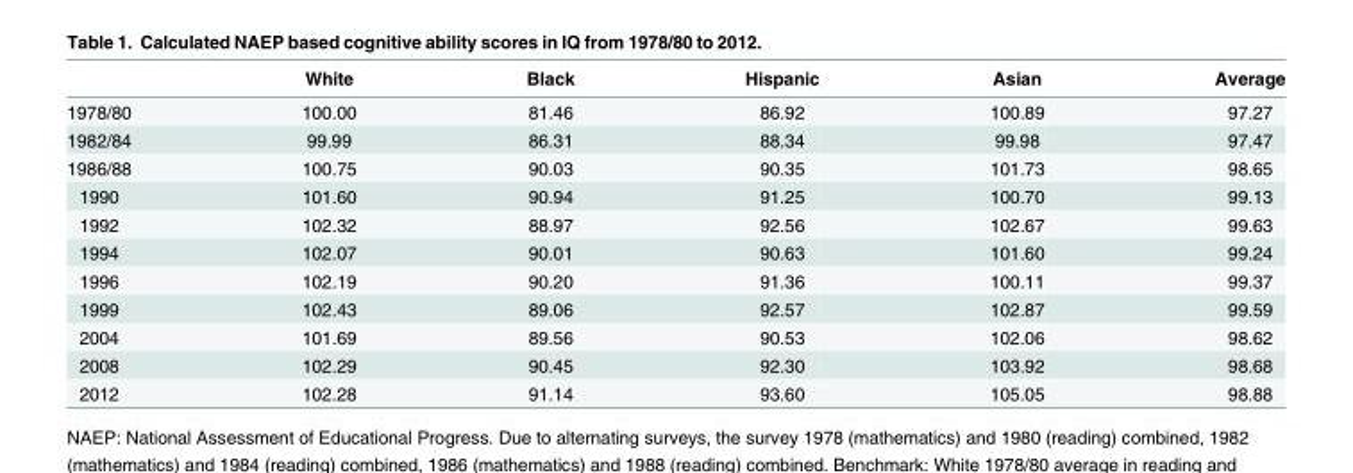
<table><thead><tr><td></td><td>White</td><td>Black</td><td>Hispanic</td><td>Asian</td><td>Average</td></tr></thead><tbody><tr><td>1978/80</td><td>100.00</td><td>81.46</td><td>86.92</td><td>100.89</td><td>97.27</td></tr><tr><td>1982/84</td><td>99.99</td><td>86.31</td><td>88.34</td><td>99.98</td><td>97.47</td></tr><tr><td>1986/88</td><td>100.75</td><td>90.03</td><td>90.35</td><td>101.73</td><td>98.65</td></tr><tr><td>1990</td><td>101.60</td><td>90.94</td><td>91.25</td><td>100.70</td><td>99.13</td></tr><tr><td>1992</td><td>102.32</td><td>88.97</td><td>92.56</td><td>102.67</td><td>99.63</td></tr><tr><td>1994</td><td>102.07</td><td>90.01</td><td>90.63</td><td>101.60</td><td>99.24</td></tr><tr><td>1996</td><td>102.19</td><td>90.20</td><td>91.36</td><td>100.11</td><td>99.37</td></tr><tr><td>1999</td><td>102.43</td><td>89.06</td><td>92.57</td><td>102.87</td><td>99.59</td></tr><tr><td>2004</td><td>101.69</td><td>89.56</td><td>90.53</td><td>102.06</td><td>98.62</td></tr><tr><td>2008</td><td>102.29</td><td>90.45</td><td>92.30</td><td>103.92</td><td>98.68</td></tr><tr><td>2012</td><td>102.28</td><td>91.14</td><td>93.60</td><td>105.05</td><td>98.88</td></tr></tbody></table>